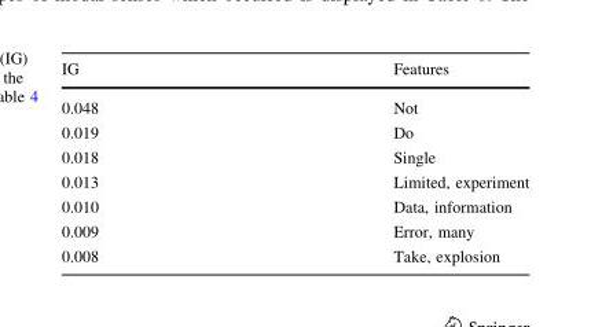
<table><thead><tr><td>IG</td><td>Features</td></tr></thead><tbody><tr><td>0.048</td><td>Not</td></tr><tr><td>0.019</td><td>Do</td></tr><tr><td>0.018</td><td>Single</td></tr><tr><td>0.013</td><td>Limited, experiment</td></tr><tr><td>0.010</td><td>Data, information</td></tr><tr><td>0.009</td><td>Error, many</td></tr><tr><td>0.008</td><td>Take, explosion</td></tr></tbody></table>